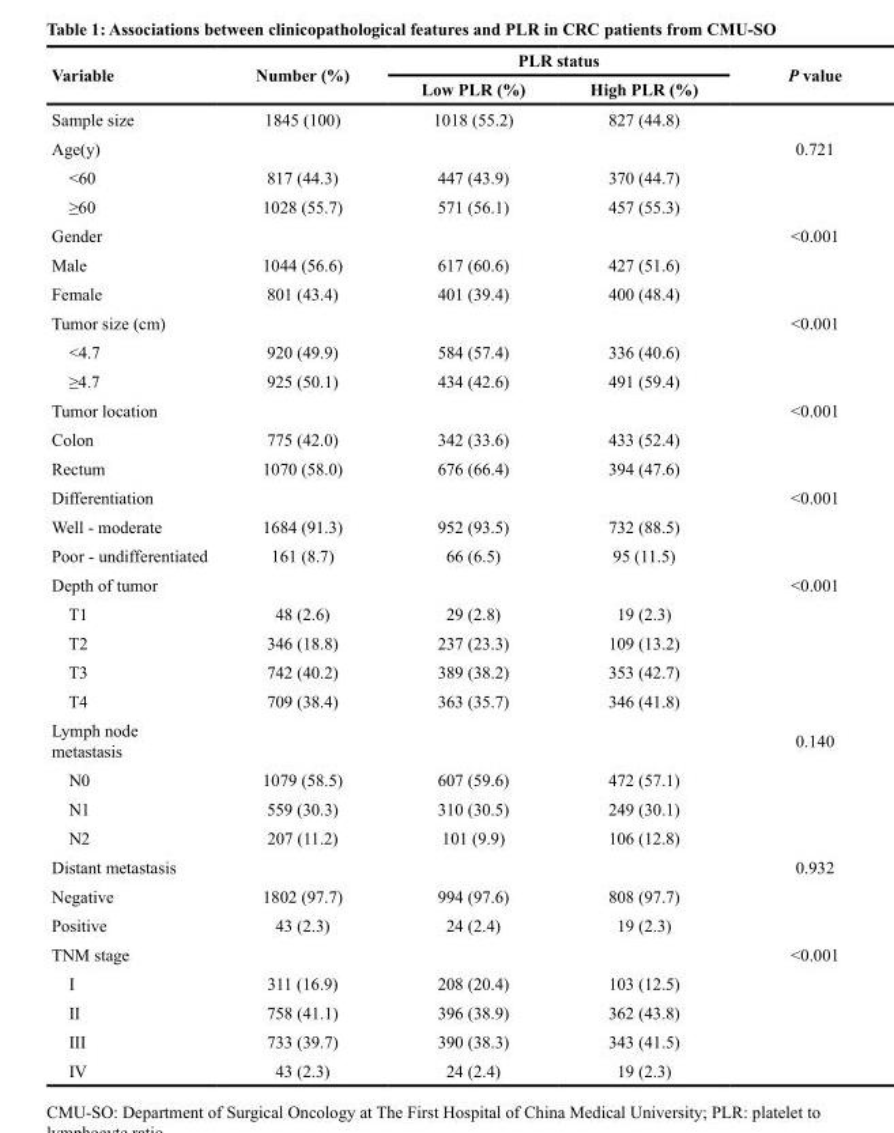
<table><thead><tr><td rowspan="2">Variable</td><td rowspan="2">Number (%)</td><td colspan="2">PLR status</td><td rowspan="2">P value</td></tr><tr><td>Low PLR (%)</td><td>High PLR (%)</td></tr></thead><tbody><tr><td>Sample size</td><td>1845 (100)</td><td>1018 (55.2)</td><td>827 (44.8)</td><td></td></tr><tr><td>Age(y)</td><td></td><td></td><td></td><td>0.721</td></tr><tr><td>&lt;60</td><td>817 (44.3)</td><td>447 (43.9)</td><td>370 (44.7)</td><td></td></tr><tr><td>≥60</td><td>1028 (55.7)</td><td>571 (56.1)</td><td>457 (55.3)</td><td></td></tr><tr><td>Gender</td><td></td><td></td><td></td><td>&lt;0.001</td></tr><tr><td>Male</td><td>1044 (56.6)</td><td>617 (60.6)</td><td>427 (51.6)</td><td></td></tr><tr><td>Female</td><td>801 (43.4)</td><td>401 (39.4)</td><td>400 (48.4)</td><td></td></tr><tr><td>Tumor size (cm)</td><td></td><td></td><td></td><td>&lt;0.001</td></tr><tr><td>&lt;4.7</td><td>920 (49.9)</td><td>584 (57.4)</td><td>336 (40.6)</td><td></td></tr><tr><td>≥4.7</td><td>925 (50.1)</td><td>434 (42.6)</td><td>491 (59.4)</td><td></td></tr><tr><td>Tumor location</td><td></td><td></td><td></td><td>&lt;0.001</td></tr><tr><td>Colon</td><td>775 (42.0)</td><td>342 (33.6)</td><td>433 (52.4)</td><td></td></tr><tr><td>Rectum</td><td>1070 (58.0)</td><td>676 (66.4)</td><td>394 (47.6)</td><td></td></tr><tr><td>Differentiation</td><td></td><td></td><td></td><td>&lt;0.001</td></tr><tr><td>Well - moderate</td><td>1684 (91.3)</td><td>952 (93.5)</td><td>732 (88.5)</td><td></td></tr><tr><td>Poor - undifferentiated</td><td>161 (8.7)</td><td>66 (6.5)</td><td>95 (11.5)</td><td></td></tr><tr><td>Depth of tumor</td><td></td><td></td><td></td><td>&lt;0.001</td></tr><tr><td>T1</td><td>48 (2.6)</td><td>29 (2.8)</td><td>19 (2.3)</td><td></td></tr><tr><td>T2</td><td>346 (18.8)</td><td>237 (23.3)</td><td>109 (13.2)</td><td></td></tr><tr><td>T3</td><td>742 (40.2)</td><td>389 (38.2)</td><td>353 (42.7)</td><td></td></tr><tr><td>T4</td><td>709 (38.4)</td><td>363 (35.7)</td><td>346 (41.8)</td><td></td></tr><tr><td>Lymph node metastasis</td><td></td><td></td><td></td><td>0.140</td></tr><tr><td>N0</td><td>1079 (58.5)</td><td>607 (59.6)</td><td>472 (57.1)</td><td></td></tr><tr><td>N1</td><td>559 (30.3)</td><td>310 (30.5)</td><td>249 (30.1)</td><td></td></tr><tr><td>N2</td><td>207 (11.2)</td><td>101 (9.9)</td><td>106 (12.8)</td><td></td></tr><tr><td>Distant metastasis</td><td></td><td></td><td></td><td>0.932</td></tr><tr><td>Negative</td><td>1802 (97.7)</td><td>994 (97.6)</td><td>808 (97.7)</td><td></td></tr><tr><td>Positive</td><td>43 (2.3)</td><td>24 (2.4)</td><td>19 (2.3)</td><td></td></tr><tr><td>TNM stage</td><td></td><td></td><td></td><td>&lt;0.001</td></tr><tr><td>I</td><td>311 (16.9)</td><td>208 (20.4)</td><td>103 (12.5)</td><td></td></tr><tr><td>II</td><td>758 (41.1)</td><td>396 (38.9)</td><td>362 (43.8)</td><td></td></tr><tr><td>III</td><td>733 (39.7)</td><td>390 (38.3)</td><td>343 (41.5)</td><td></td></tr><tr><td>IV</td><td>43 (2.3)</td><td>24 (2.4)</td><td>19 (2.3)</td><td></td></tr></tbody></table>